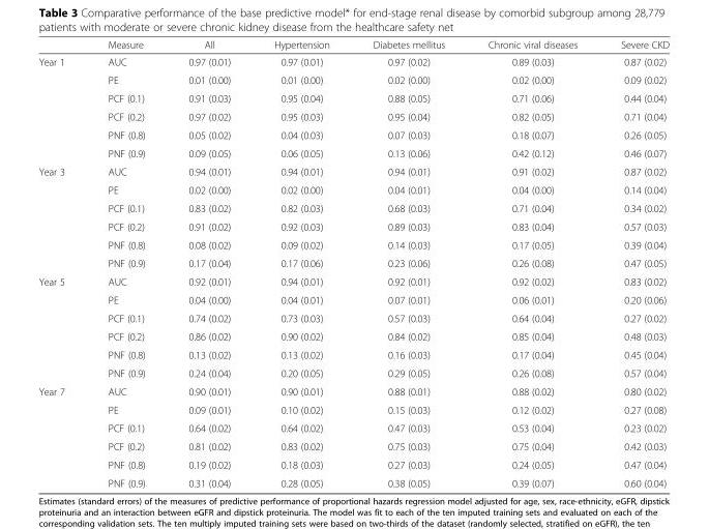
<table><thead><tr><td></td><td>Measure</td><td>All</td><td>Hypertension</td><td>Diabetes mellitus</td><td>Chronic viral diseases</td><td>Severe CKD</td></tr></thead><tbody><tr><td rowspan="6">Year 1</td><td>AUC</td><td>0.97 (0.01)</td><td>0.97 (0.01)</td><td>0.97 (0.02)</td><td>0.89 (0.03)</td><td>0.87 (0.02)</td></tr><tr><td>PE</td><td>0.01 (0.00)</td><td>0.01 (0.00)</td><td>0.02 (0.00)</td><td>0.02 (0.00)</td><td>0.09 (0.02)</td></tr><tr><td>PCF (0.1)</td><td>0.91 (0.03)</td><td>0.95 (0.04)</td><td>0.88 (0.05)</td><td>0.71 (0.06)</td><td>0.44 (0.04)</td></tr><tr><td>PCF (0.2)</td><td>0.97 (0.02)</td><td>0.95 (0.03)</td><td>0.95 (0.04)</td><td>0.82 (0.05)</td><td>0.71 (0.04)</td></tr><tr><td>PNF (0.8)</td><td>0.05 (0.02)</td><td>0.04 (0.03)</td><td>0.07 (0.03)</td><td>0.18 (0.07)</td><td>0.26 (0.05)</td></tr><tr><td>PNF (0.9)</td><td>0.09 (0.05)</td><td>0.06 (0.05)</td><td>0.13 (0.06)</td><td>0.42 (0.12)</td><td>0.46 (0.07)</td></tr><tr><td rowspan="6">Year 3</td><td>AUC</td><td>0.94 (0.01)</td><td>0.94 (0.01)</td><td>0.94 (0.01)</td><td>0.91 (0.02)</td><td>0.87 (0.02)</td></tr><tr><td>PE</td><td>0.02 (0.00)</td><td>0.02 (0.00)</td><td>0.04 (0.01)</td><td>0.04 (0.00)</td><td>0.14 (0.04)</td></tr><tr><td>PCF (0.1)</td><td>0.83 (0.02)</td><td>0.82 (0.03)</td><td>0.68 (0.03)</td><td>0.71 (0.04)</td><td>0.34 (0.02)</td></tr><tr><td>PCF (0.2)</td><td>0.91 (0.02)</td><td>0.92 (0.03)</td><td>0.89 (0.03)</td><td>0.83 (0.04)</td><td>0.57 (0.03)</td></tr><tr><td>PNF (0.8)</td><td>0.08 (0.02)</td><td>0.09 (0.02)</td><td>0.14 (0.03)</td><td>0.17 (0.05)</td><td>0.39 (0.04)</td></tr><tr><td>PNF (0.9)</td><td>0.17 (0.04)</td><td>0.17 (0.06)</td><td>0.23 (0.06)</td><td>0.26 (0.08)</td><td>0.47 (0.05)</td></tr><tr><td rowspan="6">Year 5</td><td>AUC</td><td>0.92 (0.01)</td><td>0.94 (0.01)</td><td>0.92 (0.01)</td><td>0.92 (0.02)</td><td>0.83 (0.02)</td></tr><tr><td>PE</td><td>0.04 (0.00)</td><td>0.04 (0.01)</td><td>0.07 (0.01)</td><td>0.06 (0.01)</td><td>0.20 (0.06)</td></tr><tr><td>PCF (0.1)</td><td>0.74 (0.02)</td><td>0.73 (0.03)</td><td>0.57 (0.03)</td><td>0.64 (0.04)</td><td>0.27 (0.02)</td></tr><tr><td>PCF (0.2)</td><td>0.86 (0.02)</td><td>0.90 (0.02)</td><td>0.84 (0.02)</td><td>0.85 (0.04)</td><td>0.48 (0.03)</td></tr><tr><td>PNF (0.8)</td><td>0.13 (0.02)</td><td>0.13 (0.02)</td><td>0.16 (0.03)</td><td>0.17 (0.04)</td><td>0.45 (0.04)</td></tr><tr><td>PNF (0.9)</td><td>0.24 (0.04)</td><td>0.20 (0.05)</td><td>0.29 (0.05)</td><td>0.26 (0.08)</td><td>0.57 (0.04)</td></tr><tr><td rowspan="6">Year 7</td><td>AUC</td><td>0.90 (0.01)</td><td>0.90 (0.01)</td><td>0.88 (0.01)</td><td>0.88 (0.02)</td><td>0.80 (0.02)</td></tr><tr><td>PE</td><td>0.09 (0.01)</td><td>0.10 (0.02)</td><td>0.15 (0.03)</td><td>0.12 (0.02)</td><td>0.27 (0.08)</td></tr><tr><td>PCF (0.1)</td><td>0.64 (0.02)</td><td>0.64 (0.02)</td><td>0.47 (0.03)</td><td>0.53 (0.04)</td><td>0.23 (0.02)</td></tr><tr><td>PCF (0.2)</td><td>0.81 (0.02)</td><td>0.83 (0.02)</td><td>0.75 (0.03)</td><td>0.75 (0.04)</td><td>0.42 (0.03)</td></tr><tr><td>PNF (0.8)</td><td>0.19 (0.02)</td><td>0.18 (0.03)</td><td>0.27 (0.03)</td><td>0.24 (0.05)</td><td>0.47 (0.04)</td></tr><tr><td>PNF (0.9)</td><td>0.31 (0.04)</td><td>0.28 (0.05)</td><td>0.38 (0.05)</td><td>0.39 (0.07)</td><td>0.60 (0.04)</td></tr></tbody></table>